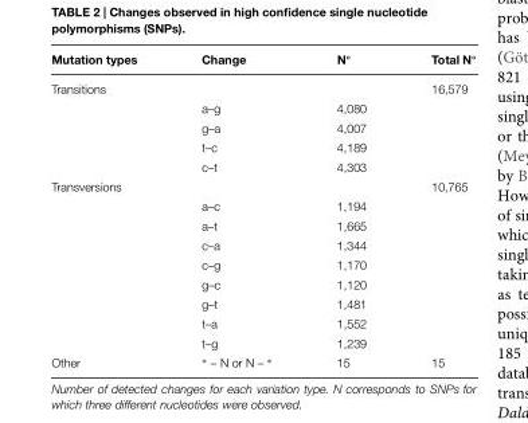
<table><thead><tr><td>Mutation types</td><td>Change</td><td>N◦</td><td>Total N◦</td></tr></thead><tbody><tr><td rowspan="5">Transitions</td><td></td><td></td><td>16,579</td></tr><tr><td>a–g</td><td>4,080</td><td></td></tr><tr><td>g–a</td><td>4,007</td><td></td></tr><tr><td>t–c</td><td>4,189</td><td></td></tr><tr><td>c–t</td><td>4,303</td><td></td></tr><tr><td rowspan="9">Transversions</td><td></td><td></td><td>10,765</td></tr><tr><td>a–c</td><td>1,194</td><td></td></tr><tr><td>a–t</td><td>1,665</td><td></td></tr><tr><td>c–a</td><td>1,344</td><td></td></tr><tr><td>c–g</td><td>1,170</td><td></td></tr><tr><td>g–c</td><td>1,120</td><td></td></tr><tr><td>g–t</td><td>1,481</td><td></td></tr><tr><td>t–a</td><td>1,552</td><td></td></tr><tr><td>t–g</td><td>1,239</td><td></td></tr><tr><td>Other</td><td>∗ – N or N – ∗</td><td>15</td><td>15</td></tr></tbody></table>